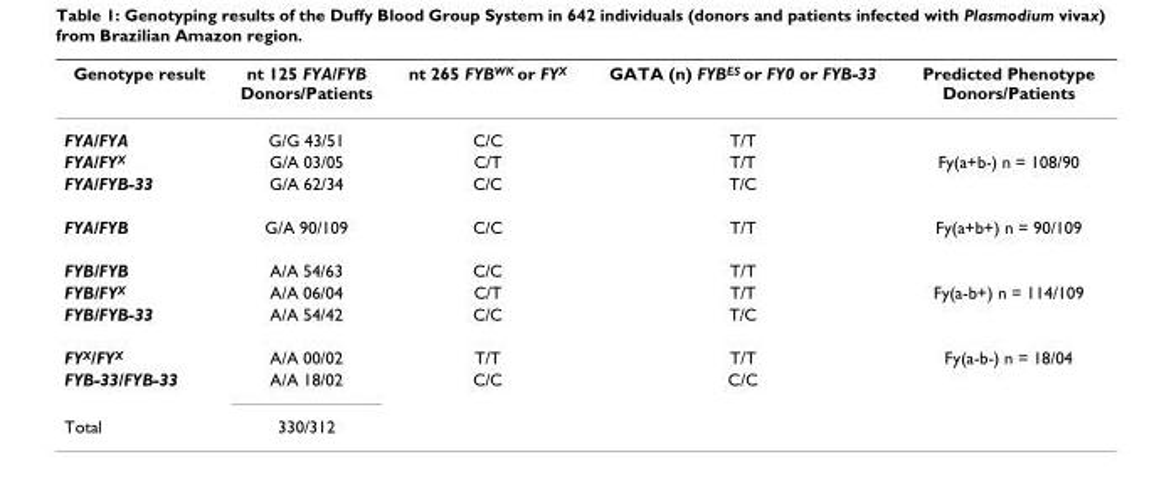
<table><thead><tr><td>Genotype result</td><td>nt 125 FYA/FYB Donors/Patients</td><td>nt 265 FYB<sup>WK</sup> or FY<sup>X</sup></td><td>GATA (n) FYB<sup>ES</sup> or FY0 or FYB-33</td><td>Predicted Phenotype Donors/Patients</td></tr></thead><tbody><tr><td>FYA/FYA</td><td>G/G 43/51</td><td>C/C</td><td>T/T</td><td></td></tr><tr><td>FYA/FY<sup>X</sup></td><td>G/A 03/05</td><td>C/T</td><td>T/T</td><td>Fy(a+b-) n = 108/90</td></tr><tr><td>FYA/FYB-33</td><td>G/A 62/34</td><td>C/C</td><td>T/C</td><td></td></tr><tr><td>FYA/FYB</td><td>G/A 90/109</td><td>C/C</td><td>T/T</td><td>Fy(a+b+) n = 90/109</td></tr><tr><td>FYB/FYB</td><td>A/A 54/63</td><td>C/C</td><td>T/T</td><td></td></tr><tr><td>FYB/FY<sup>X</sup></td><td>A/A 06/04</td><td>C/T</td><td>T/T</td><td>Fy(a-b+) n = 114/109</td></tr><tr><td>FYB/FYB-33</td><td>A/A 54/42</td><td>C/C</td><td>T/C</td><td></td></tr><tr><td>FY<sup>X</sup>/FY<sup>X</sup></td><td>A/A 00/02</td><td>T/T</td><td>T/T</td><td>Fy(a-b-) n = 18/04</td></tr><tr><td>FYB-33/FYB-33</td><td>A/A 18/02</td><td>C/C</td><td>C/C</td><td></td></tr><tr><td>Total</td><td>330/312</td><td></td><td></td><td></td></tr></tbody></table>